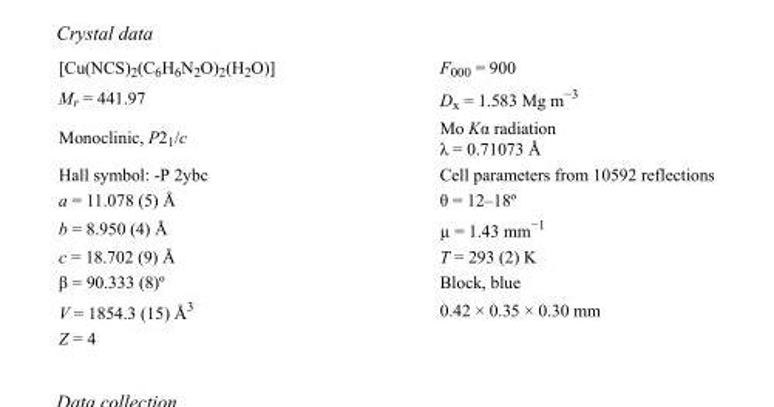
<table><tbody><tr><td>[Cu(NCS)<sub>2</sub>(C<sub>6</sub>H<sub>6</sub>N<sub>2</sub>O)<sub>2</sub>(H<sub>2</sub>O)]</td><td>F<sub>000</sub> = 900</td></tr><tr><td>M<sub>r</sub> = 441.97</td><td>D<sub>x</sub> = 1.583 Mg m<sup>−3</sup></td></tr><tr><td>Monoclinic, P2<sub>1</sub>/c</td><td>Mo Kα radiation λ = 0.71073 Å</td></tr><tr><td>Hall symbol: -P 2ybc</td><td>Cell parameters from 10592 reflections</td></tr><tr><td>a = 11.078 (5) Å</td><td>θ = 12–18º</td></tr><tr><td>b = 8.950 (4) Å</td><td>µ = 1.43 mm<sup>−1</sup></td></tr><tr><td>c = 18.702 (9) Å</td><td>T = 293 (2) K</td></tr><tr><td>β = 90.333 (8)º</td><td>Block, blue</td></tr><tr><td>V = 1854.3 (15) Å<sup>3</sup></td><td>0.42 × 0.35 × 0.30 mm</td></tr><tr><td>Z = 4</td><td></td></tr></tbody></table>